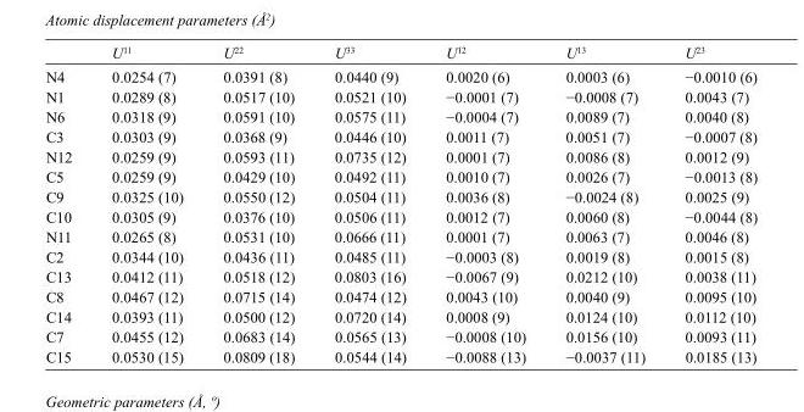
<table><thead><tr><td></td><td>U<sup>11</sup></td><td>U<sup>22</sup></td><td>U<sup>33</sup></td><td>U<sup>12</sup></td><td>U<sup>13</sup></td><td>U<sup>23</sup></td></tr></thead><tbody><tr><td>N4</td><td>0.0254 (7)</td><td>0.0391 (8)</td><td>0.0440 (9)</td><td>0.0020 (6)</td><td>0.0003 (6)</td><td>−0.0010 (6)</td></tr><tr><td>N1</td><td>0.0289 (8)</td><td>0.0517 (10)</td><td>0.0521 (10)</td><td>−0.0001 (7)</td><td>−0.0008 (7)</td><td>0.0043 (7)</td></tr><tr><td>N6</td><td>0.0318 (9)</td><td>0.0591 (10)</td><td>0.0575 (11)</td><td>−0.0004 (7)</td><td>0.0089 (7)</td><td>0.0040 (8)</td></tr><tr><td>C3</td><td>0.0303 (9)</td><td>0.0368 (9)</td><td>0.0446 (10)</td><td>0.0011 (7)</td><td>0.0051 (7)</td><td>−0.0007 (8)</td></tr><tr><td>N12</td><td>0.0259 (9)</td><td>0.0593 (11)</td><td>0.0735 (12)</td><td>0.0001 (7)</td><td>0.0086 (8)</td><td>0.0012 (9)</td></tr><tr><td>C5</td><td>0.0259 (9)</td><td>0.0429 (10)</td><td>0.0492 (11)</td><td>0.0010 (7)</td><td>0.0026 (7)</td><td>−0.0013 (8)</td></tr><tr><td>C9</td><td>0.0325 (10)</td><td>0.0550 (12)</td><td>0.0504 (11)</td><td>0.0036 (8)</td><td>−0.0024 (8)</td><td>0.0025 (9)</td></tr><tr><td>C10</td><td>0.0305 (9)</td><td>0.0376 (10)</td><td>0.0506 (11)</td><td>0.0012 (7)</td><td>0.0060 (8)</td><td>−0.0044 (8)</td></tr><tr><td>N11</td><td>0.0265 (8)</td><td>0.0531 (10)</td><td>0.0666 (11)</td><td>0.0001 (7)</td><td>0.0063 (7)</td><td>0.0046 (8)</td></tr><tr><td>C2</td><td>0.0344 (10)</td><td>0.0436 (11)</td><td>0.0485 (11)</td><td>−0.0003 (8)</td><td>0.0019 (8)</td><td>0.0015 (8)</td></tr><tr><td>C13</td><td>0.0412 (11)</td><td>0.0518 (12)</td><td>0.0803 (16)</td><td>−0.0067 (9)</td><td>0.0212 (10)</td><td>0.0038 (11)</td></tr><tr><td>C8</td><td>0.0467 (12)</td><td>0.0715 (14)</td><td>0.0474 (12)</td><td>0.0043 (10)</td><td>0.0040 (9)</td><td>0.0095 (10)</td></tr><tr><td>C14</td><td>0.0393 (11)</td><td>0.0500 (12)</td><td>0.0720 (14)</td><td>0.0008 (9)</td><td>0.0124 (10)</td><td>0.0112 (10)</td></tr><tr><td>C7</td><td>0.0455 (12)</td><td>0.0683 (14)</td><td>0.0565 (13)</td><td>−0.0008 (10)</td><td>0.0156 (10)</td><td>0.0093 (11)</td></tr><tr><td>C15</td><td>0.0530 (15)</td><td>0.0809 (18)</td><td>0.0544 (14)</td><td>−0.0088 (13)</td><td>−0.0037 (11)</td><td>0.0185 (13)</td></tr></tbody></table>